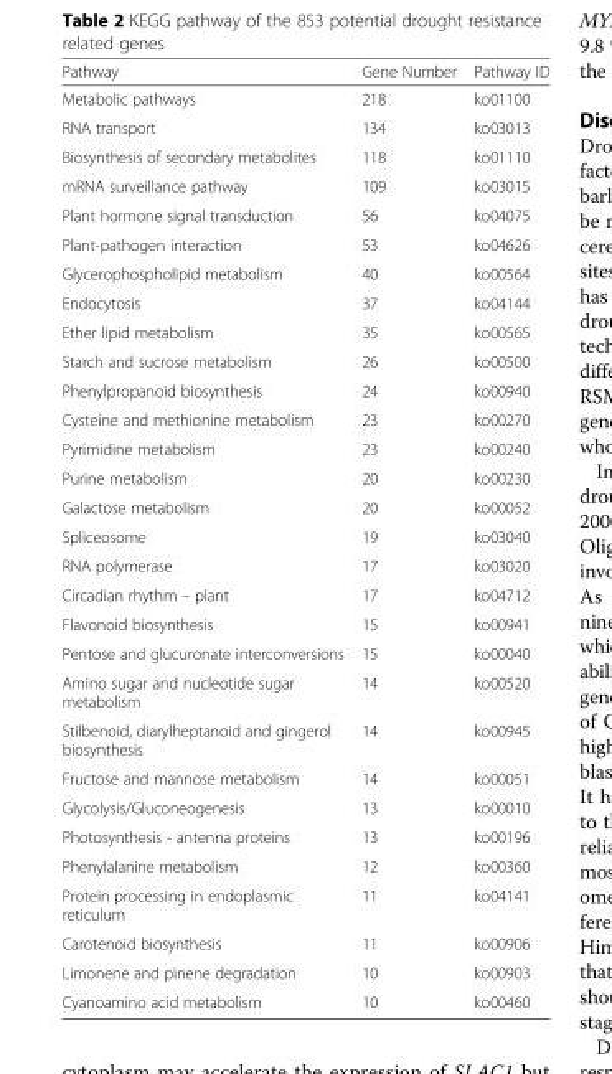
<table><thead><tr><td>Pathway</td><td>Gene Number</td><td>Pathway ID</td></tr></thead><tbody><tr><td>Metabolic pathways</td><td>218</td><td>ko01100</td></tr><tr><td>RNA transport</td><td>134</td><td>ko03013</td></tr><tr><td>Biosynthesis of secondary metabolites</td><td>118</td><td>ko01110</td></tr><tr><td>mRNA surveillance pathway</td><td>109</td><td>ko03015</td></tr><tr><td>Plant hormone signal transduction</td><td>56</td><td>ko04075</td></tr><tr><td>Plant-pathogen interaction</td><td>53</td><td>ko04626</td></tr><tr><td>Glycerophospholipid metabolism</td><td>40</td><td>ko00564</td></tr><tr><td>Endocytosis</td><td>37</td><td>ko04144</td></tr><tr><td>Ether lipid metabolism</td><td>35</td><td>ko00565</td></tr><tr><td>Starch and sucrose metabolism</td><td>26</td><td>ko00500</td></tr><tr><td>Phenylpropanoid biosynthesis</td><td>24</td><td>ko00940</td></tr><tr><td>Cysteine and methionine metabolism</td><td>23</td><td>ko00270</td></tr><tr><td>Pyrimidine metabolism</td><td>23</td><td>ko00240</td></tr><tr><td>Purine metabolism</td><td>20</td><td>ko00230</td></tr><tr><td>Galactose metabolism</td><td>20</td><td>ko00052</td></tr><tr><td>Spliceosome</td><td>19</td><td>ko03040</td></tr><tr><td>RNA polymerase</td><td>17</td><td>ko03020</td></tr><tr><td>Circadian rhythm – plant</td><td>17</td><td>ko04712</td></tr><tr><td>Flavonoid biosynthesis</td><td>15</td><td>ko00941</td></tr><tr><td>Pentose and glucuronate interconversions</td><td>15</td><td>ko00040</td></tr><tr><td>Amino sugar and nucleotide sugar metabolism</td><td>14</td><td>ko00520</td></tr><tr><td>Stilbenoid, diarylheptanoid and gingerol biosynthesis</td><td>14</td><td>ko00945</td></tr><tr><td>Fructose and mannose metabolism</td><td>14</td><td>ko00051</td></tr><tr><td>Glycolysis/Gluconeogenesis</td><td>13</td><td>ko00010</td></tr><tr><td>Photosynthesis - antenna proteins</td><td>13</td><td>ko00196</td></tr><tr><td>Phenylalanine metabolism</td><td>12</td><td>ko00360</td></tr><tr><td>Protein processing in endoplasmic reticulum</td><td>11</td><td>ko04141</td></tr><tr><td>Carotenoid biosynthesis</td><td>11</td><td>ko00906</td></tr><tr><td>Limonene and pinene degradation</td><td>10</td><td>ko00903</td></tr><tr><td>Cyanoamino acid metabolism</td><td>10</td><td>ko00460</td></tr></tbody></table>